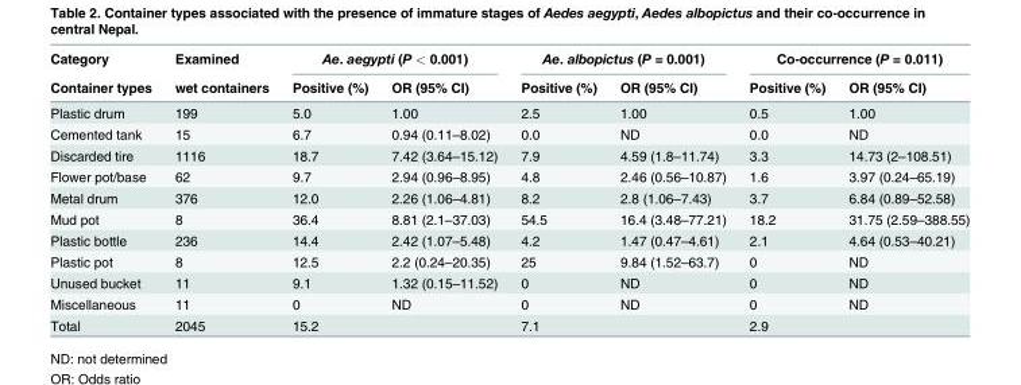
<table><thead><tr><td rowspan="2">Category Container types</td><td rowspan="2">Examined wet containers</td><td colspan="2">Ae. aegypti (P &lt; 0.001)</td><td colspan="2">Ae. albopictus (P = 0.001)</td><td colspan="2">Co-occurrence (P = 0.011)</td></tr><tr><td>Positive (%)</td><td>OR (95% CI)</td><td>Positive (%)</td><td>OR (95% CI)</td><td>Positive (%)</td><td>OR (95% CI)</td></tr></thead><tbody><tr><td>Plastic drum</td><td>199</td><td>5.0</td><td>1.00</td><td>2.5</td><td>1.00</td><td>0.5</td><td>1.00</td></tr><tr><td>Cemented tank</td><td>15</td><td>6.7</td><td>0.94 (0.11–8.02)</td><td>0.0</td><td>ND</td><td>0.0</td><td>ND</td></tr><tr><td>Discarded tire</td><td>1116</td><td>18.7</td><td>7.42 (3.64–15.12)</td><td>7.9</td><td>4.59 (1.8–11.74)</td><td>3.3</td><td>14.73 (2–108.51)</td></tr><tr><td>Flower pot/base</td><td>62</td><td>9.7</td><td>2.94 (0.96–8.95)</td><td>4.8</td><td>2.46 (0.56–10.87)</td><td>1.6</td><td>3.97 (0.24–65.19)</td></tr><tr><td>Metal drum</td><td>376</td><td>12.0</td><td>2.26 (1.06–4.81)</td><td>8.2</td><td>2.8 (1.06–7.43)</td><td>3.7</td><td>6.84 (0.89–52.58)</td></tr><tr><td>Mud pot</td><td>8</td><td>36.4</td><td>8.81 (2.1–37.03)</td><td>54.5</td><td>16.4 (3.48–77.21)</td><td>18.2</td><td>31.75 (2.59–388.55)</td></tr><tr><td>Plastic bottle</td><td>236</td><td>14.4</td><td>2.42 (1.07–5.48)</td><td>4.2</td><td>1.47 (0.47–4.61)</td><td>2.1</td><td>4.64 (0.53–40.21)</td></tr><tr><td>Plastic pot</td><td>8</td><td>12.5</td><td>2.2 (0.24–20.35)</td><td>25</td><td>9.84 (1.52–63.7)</td><td>0</td><td>ND</td></tr><tr><td>Unused bucket</td><td>11</td><td>9.1</td><td>1.32 (0.15–11.52)</td><td>0</td><td>ND</td><td>0</td><td>ND</td></tr><tr><td>Miscellaneous</td><td>11</td><td>0</td><td>ND</td><td>0</td><td>ND</td><td>0</td><td>ND</td></tr><tr><td>Total</td><td>2045</td><td>15.2</td><td></td><td>7.1</td><td></td><td>2.9</td><td></td></tr></tbody></table>